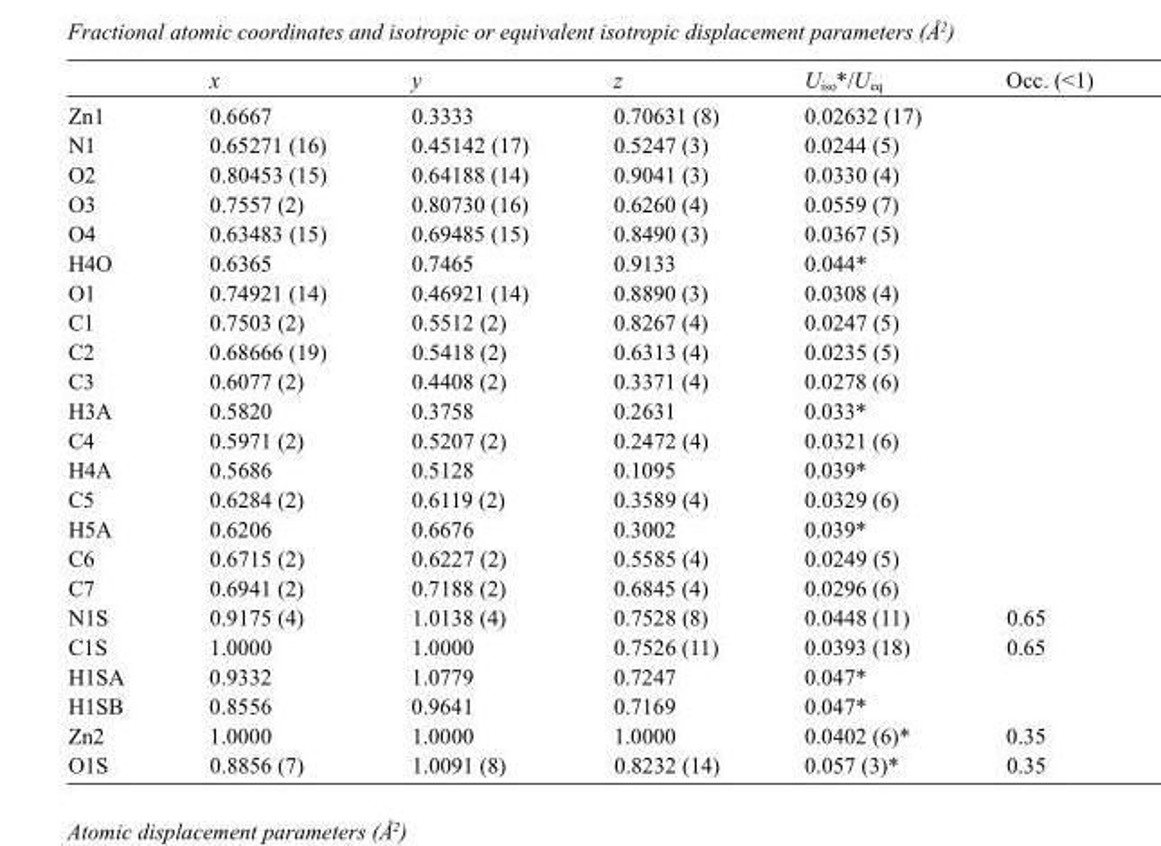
<table><thead><tr><td></td><td>x</td><td>y</td><td>z</td><td>U<sub>iso</sub>*/U<sub>eq</sub></td><td>Occ. (&lt;1)</td></tr></thead><tbody><tr><td>Zn1</td><td>0.6667</td><td>0.3333</td><td>0.70631 (8)</td><td>0.02632 (17)</td><td></td></tr><tr><td>N1</td><td>0.65271 (16)</td><td>0.45142 (17)</td><td>0.5247 (3)</td><td>0.0244 (5)</td><td></td></tr><tr><td>O2</td><td>0.80453 (15)</td><td>0.64188 (14)</td><td>0.9041 (3)</td><td>0.0330 (4)</td><td></td></tr><tr><td>O3</td><td>0.7557 (2)</td><td>0.80730 (16)</td><td>0.6260 (4)</td><td>0.0559 (7)</td><td></td></tr><tr><td>O4</td><td>0.63483 (15)</td><td>0.69485 (15)</td><td>0.8490 (3)</td><td>0.0367 (5)</td><td></td></tr><tr><td>H4O</td><td>0.6365</td><td>0.7465</td><td>0.9133</td><td>0.044*</td><td></td></tr><tr><td>O1</td><td>0.74921 (14)</td><td>0.46921 (14)</td><td>0.8890 (3)</td><td>0.0308 (4)</td><td></td></tr><tr><td>C1</td><td>0.7503 (2)</td><td>0.5512 (2)</td><td>0.8267 (4)</td><td>0.0247 (5)</td><td></td></tr><tr><td>C2</td><td>0.68666 (19)</td><td>0.5418 (2)</td><td>0.6313 (4)</td><td>0.0235 (5)</td><td></td></tr><tr><td>C3</td><td>0.6077 (2)</td><td>0.4408 (2)</td><td>0.3371 (4)</td><td>0.0278 (6)</td><td></td></tr><tr><td>H3A</td><td>0.5820</td><td>0.3758</td><td>0.2631</td><td>0.033*</td><td></td></tr><tr><td>C4</td><td>0.5971 (2)</td><td>0.5207 (2)</td><td>0.2472 (4)</td><td>0.0321 (6)</td><td></td></tr><tr><td>H4A</td><td>0.5686</td><td>0.5128</td><td>0.1095</td><td>0.039*</td><td></td></tr><tr><td>C5</td><td>0.6284 (2)</td><td>0.6119 (2)</td><td>0.3589 (4)</td><td>0.0329 (6)</td><td></td></tr><tr><td>H5A</td><td>0.6206</td><td>0.6676</td><td>0.3002</td><td>0.039*</td><td></td></tr><tr><td>C6</td><td>0.6715 (2)</td><td>0.6227 (2)</td><td>0.5585 (4)</td><td>0.0249 (5)</td><td></td></tr><tr><td>C7</td><td>0.6941 (2)</td><td>0.7188 (2)</td><td>0.6845 (4)</td><td>0.0296 (6)</td><td></td></tr><tr><td>N1S</td><td>0.9175 (4)</td><td>1.0138 (4)</td><td>0.7528 (8)</td><td>0.0448 (11)</td><td>0.65</td></tr><tr><td>C1S</td><td>1.0000</td><td>1.0000</td><td>0.7526 (11)</td><td>0.0393 (18)</td><td>0.65</td></tr><tr><td>H1SA</td><td>0.9332</td><td>1.0779</td><td>0.7247</td><td>0.047*</td><td></td></tr><tr><td>H1SB</td><td>0.8556</td><td>0.9641</td><td>0.7169</td><td>0.047*</td><td></td></tr><tr><td>Zn2</td><td>1.0000</td><td>1.0000</td><td>1.0000</td><td>0.0402 (6)*</td><td>0.35</td></tr><tr><td>O1S</td><td>0.8856 (7)</td><td>1.0091 (8)</td><td>0.8232 (14)</td><td>0.057 (3)*</td><td>0.35</td></tr></tbody></table>